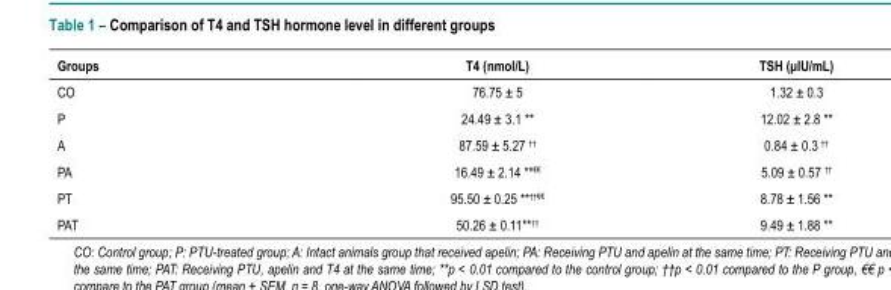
<table><thead><tr><td>Groups</td><td>T4 (nmol/L)</td><td>TSH (μIU/mL)</td></tr></thead><tbody><tr><td>CO</td><td>76.75 ± 5</td><td>1.32 ± 0.3</td></tr><tr><td>P</td><td>24.49 ± 3.1 **</td><td>12.02 ± 2.8 **</td></tr><tr><td>A</td><td>87.59 ± 5.27 ††</td><td>0.84 ± 0.3 ††</td></tr><tr><td>PA</td><td>16.49 ± 2.14 **€€</td><td>5.09 ± 0.57 ††</td></tr><tr><td>PT</td><td>95.50 ± 0.25 **††€€</td><td>8.78 ± 1.56 **</td></tr><tr><td>PAT</td><td>50.26 ± 0.11**††</td><td>9.49 ± 1.88 **</td></tr></tbody></table>